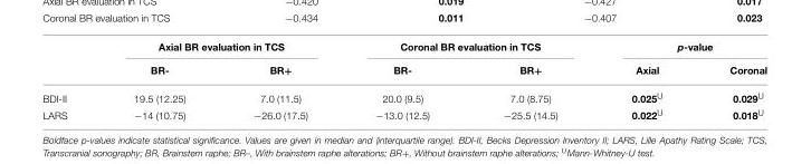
<table><thead><tr><td rowspan="2"></td><td colspan="2">Axial BR evaluation in TCS</td><td colspan="2">Coronal BR evaluation in TCS</td><td colspan="2">p-value</td></tr><tr><td>BR-</td><td>BR+</td><td>BR-</td><td>BR+</td><td>Axial</td><td>Coronal</td></tr></thead><tbody><tr><td>BDI-II</td><td>19.5 (12.25)</td><td>7.0 (11.5)</td><td>20.0 (9.5)</td><td>7.0 (8.75)</td><td>0.025<sup>U</sup></td><td>0.029<sup>U</sup></td></tr><tr><td>LARS</td><td>−14 (10.75)</td><td>−26.0 (17.5)</td><td>−13.0 (12.5)</td><td>−25.5 (14.5)</td><td>0.022<sup>U</sup></td><td>0.018<sup>U</sup></td></tr></tbody></table>